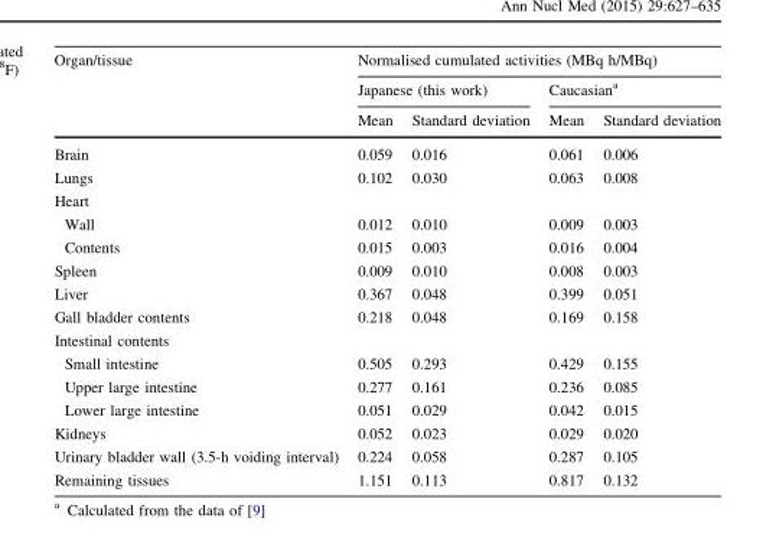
<table><thead><tr><td rowspan="3">Organ/tissue</td><td colspan="4">Normalised cumulated activities (MBq h/MBq)</td></tr><tr><td colspan="2">Japanese (this work)</td><td colspan="2">Caucasian<sup>a</sup></td></tr><tr><td>Mean</td><td>Standard deviation</td><td>Mean</td><td>Standard deviation</td></tr></thead><tbody><tr><td>Brain</td><td>0.059</td><td>0.016</td><td>0.061</td><td>0.006</td></tr><tr><td>Lungs</td><td>0.102</td><td>0.030</td><td>0.063</td><td>0.008</td></tr><tr><td colspan="5">Heart</td></tr><tr><td>Wall</td><td>0.012</td><td>0.010</td><td>0.009</td><td>0.003</td></tr><tr><td>Contents</td><td>0.015</td><td>0.003</td><td>0.016</td><td>0.004</td></tr><tr><td>Spleen</td><td>0.009</td><td>0.010</td><td>0.008</td><td>0.003</td></tr><tr><td>Liver</td><td>0.367</td><td>0.048</td><td>0.399</td><td>0.051</td></tr><tr><td>Gall bladder contents</td><td>0.218</td><td>0.048</td><td>0.169</td><td>0.158</td></tr><tr><td colspan="5">Intestinal contents</td></tr><tr><td>Small intestine</td><td>0.505</td><td>0.293</td><td>0.429</td><td>0.155</td></tr><tr><td>Upper large intestine</td><td>0.277</td><td>0.161</td><td>0.236</td><td>0.085</td></tr><tr><td>Lower large intestine</td><td>0.051</td><td>0.029</td><td>0.042</td><td>0.015</td></tr><tr><td>Kidneys</td><td>0.052</td><td>0.023</td><td>0.029</td><td>0.020</td></tr><tr><td>Urinary bladder wall (3.5-h voiding interval)</td><td>0.224</td><td>0.058</td><td>0.287</td><td>0.105</td></tr><tr><td>Remaining tissues</td><td>1.151</td><td>0.113</td><td>0.817</td><td>0.132</td></tr></tbody></table>